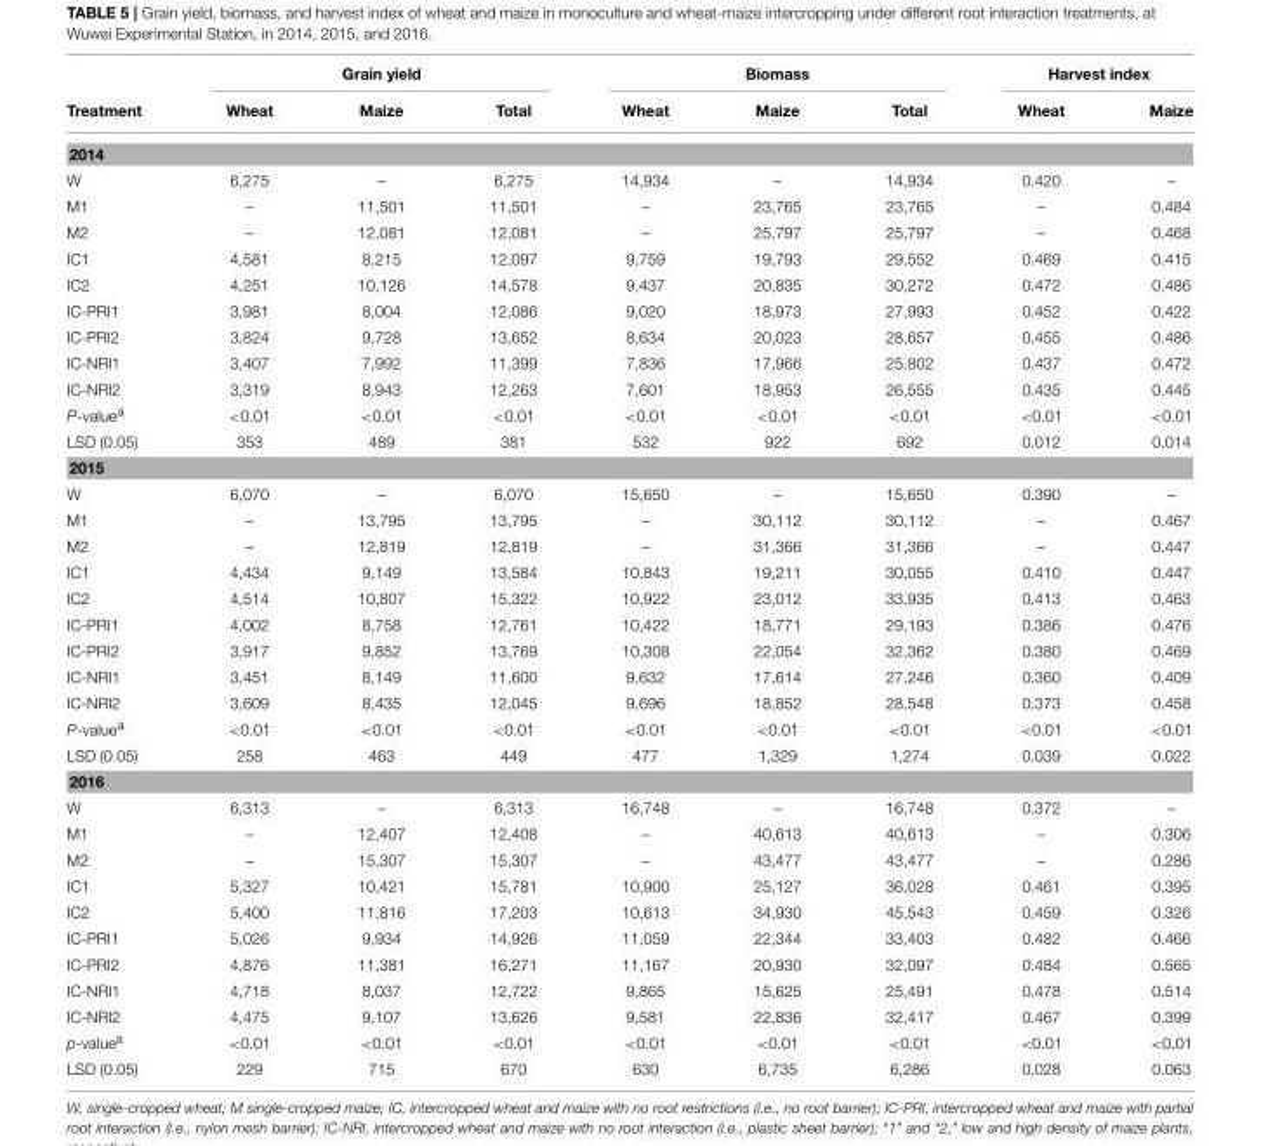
<table><thead><tr><td rowspan="2">Treatment</td><td colspan="3">Grain yield</td><td colspan="3">Biomass</td><td colspan="2">Harvest index</td></tr><tr><td>Wheat</td><td>Maize</td><td>Total</td><td>Wheat</td><td>Maize</td><td>Total</td><td>Wheat</td><td>Maize</td></tr></thead><tbody><tr><td colspan="9">2014</td></tr><tr><td>W</td><td>6,275</td><td>–</td><td>6,275</td><td>14,934</td><td>–</td><td>14,934</td><td>0.420</td><td>–</td></tr><tr><td>M1</td><td>–</td><td>11,501</td><td>11,501</td><td>–</td><td>23,765</td><td>23,765</td><td>–</td><td>0.484</td></tr><tr><td>M2</td><td>–</td><td>12,081</td><td>12,081</td><td>–</td><td>25,797</td><td>25,797</td><td>–</td><td>0.468</td></tr><tr><td>IC1</td><td>4,581</td><td>8,215</td><td>12,097</td><td>9,759</td><td>19,793</td><td>29,552</td><td>0.469</td><td>0.415</td></tr><tr><td>IC2</td><td>4,251</td><td>10,126</td><td>14,578</td><td>9,437</td><td>20,835</td><td>30,272</td><td>0.472</td><td>0.486</td></tr><tr><td>IC-PRI1</td><td>3,981</td><td>8,004</td><td>12,086</td><td>9,020</td><td>18,973</td><td>27,993</td><td>0.452</td><td>0.422</td></tr><tr><td>IC-PRI2</td><td>3,824</td><td>9,728</td><td>13,652</td><td>8,634</td><td>20,023</td><td>28,657</td><td>0.455</td><td>0.486</td></tr><tr><td>IC-NRI1</td><td>3,407</td><td>7,992</td><td>11,399</td><td>7,836</td><td>17,966</td><td>25,802</td><td>0.437</td><td>0.472</td></tr><tr><td>IC-NRI2</td><td>3,319</td><td>8,943</td><td>12,263</td><td>7,601</td><td>18,953</td><td>26,555</td><td>0.435</td><td>0.445</td></tr><tr><td>P-value<sup>a</sup></td><td>&lt;0.01</td><td>&lt;0.01</td><td>&lt;0.01</td><td>&lt;0.01</td><td>&lt;0.01</td><td>&lt;0.01</td><td>&lt;0.01</td><td>&lt;0.01</td></tr><tr><td>LSD (0.05)</td><td>353</td><td>489</td><td>381</td><td>532</td><td>922</td><td>692</td><td>0.012</td><td>0.014</td></tr><tr><td colspan="9">2015</td></tr><tr><td>W</td><td>6,070</td><td>–</td><td>6,070</td><td>15,650</td><td>–</td><td>15,650</td><td>0.390</td><td>–</td></tr><tr><td>M1</td><td>–</td><td>13,795</td><td>13,795</td><td>–</td><td>30,112</td><td>30,112</td><td>–</td><td>0.467</td></tr><tr><td>M2</td><td>–</td><td>12,819</td><td>12,819</td><td>–</td><td>31,366</td><td>31,366</td><td>–</td><td>0.447</td></tr><tr><td>IC1</td><td>4,434</td><td>9,149</td><td>13,584</td><td>10,843</td><td>19,211</td><td>30,055</td><td>0.410</td><td>0.447</td></tr><tr><td>IC2</td><td>4,514</td><td>10,807</td><td>15,322</td><td>10,922</td><td>23,012</td><td>33,935</td><td>0.413</td><td>0.463</td></tr><tr><td>IC-PRI1</td><td>4,002</td><td>8,758</td><td>12,761</td><td>10,422</td><td>18,771</td><td>29,193</td><td>0.386</td><td>0.476</td></tr><tr><td>IC-PRI2</td><td>3,917</td><td>9,852</td><td>13,769</td><td>10,308</td><td>22,054</td><td>32,362</td><td>0.380</td><td>0.469</td></tr><tr><td>IC-NRI1</td><td>3,451</td><td>8,149</td><td>11,600</td><td>9,632</td><td>17,614</td><td>27,246</td><td>0.360</td><td>0.409</td></tr><tr><td>IC-NRI2</td><td>3,609</td><td>8,435</td><td>12,045</td><td>9,696</td><td>18,852</td><td>28,548</td><td>0.373</td><td>0.458</td></tr><tr><td>P-value<sup>a</sup></td><td>&lt;0.01</td><td>&lt;0.01</td><td>&lt;0.01</td><td>&lt;0.01</td><td>&lt;0.01</td><td>&lt;0.01</td><td>&lt;0.01</td><td>&lt;0.01</td></tr><tr><td>LSD (0.05)</td><td>258</td><td>463</td><td>449</td><td>477</td><td>1,329</td><td>1,274</td><td>0.039</td><td>0.022</td></tr><tr><td colspan="9">2016</td></tr><tr><td>W</td><td>6,313</td><td>–</td><td>6,313</td><td>16,748</td><td>–</td><td>16,748</td><td>0.372</td><td>–</td></tr><tr><td>M1</td><td>–</td><td>12,407</td><td>12,408</td><td>–</td><td>40,613</td><td>40,613</td><td>–</td><td>0.306</td></tr><tr><td>M2</td><td>–</td><td>15,307</td><td>15,307</td><td>–</td><td>43,477</td><td>43,477</td><td>–</td><td>0.286</td></tr><tr><td>IC1</td><td>5,327</td><td>10,421</td><td>15,781</td><td>10,900</td><td>25,127</td><td>36,028</td><td>0.461</td><td>0.395</td></tr><tr><td>IC2</td><td>5,400</td><td>11,816</td><td>17,203</td><td>10,613</td><td>34,930</td><td>45,543</td><td>0.459</td><td>0.326</td></tr><tr><td>IC-PRI1</td><td>5,026</td><td>9,934</td><td>14,926</td><td>11,059</td><td>22,344</td><td>33,403</td><td>0.482</td><td>0.466</td></tr><tr><td>IC-PRI2</td><td>4,876</td><td>11,381</td><td>16,271</td><td>11,167</td><td>20,930</td><td>32,097</td><td>0.484</td><td>0.565</td></tr><tr><td>IC-NRI1</td><td>4,718</td><td>8,037</td><td>12,722</td><td>9,865</td><td>15,625</td><td>25,491</td><td>0.478</td><td>0.514</td></tr><tr><td>IC-NRI2</td><td>4,475</td><td>9,107</td><td>13,626</td><td>9,581</td><td>22,836</td><td>32,417</td><td>0.467</td><td>0.399</td></tr><tr><td>p-value<sup>a</sup></td><td>&lt;0.01</td><td>&lt;0.01</td><td>&lt;0.01</td><td>&lt;0.01</td><td>&lt;0.01</td><td>&lt;0.01</td><td>&lt;0.01</td><td>&lt;0.01</td></tr><tr><td>LSD (0.05)</td><td>229</td><td>715</td><td>670</td><td>630</td><td>6,735</td><td>6,286</td><td>0.028</td><td>0.063</td></tr></tbody></table>